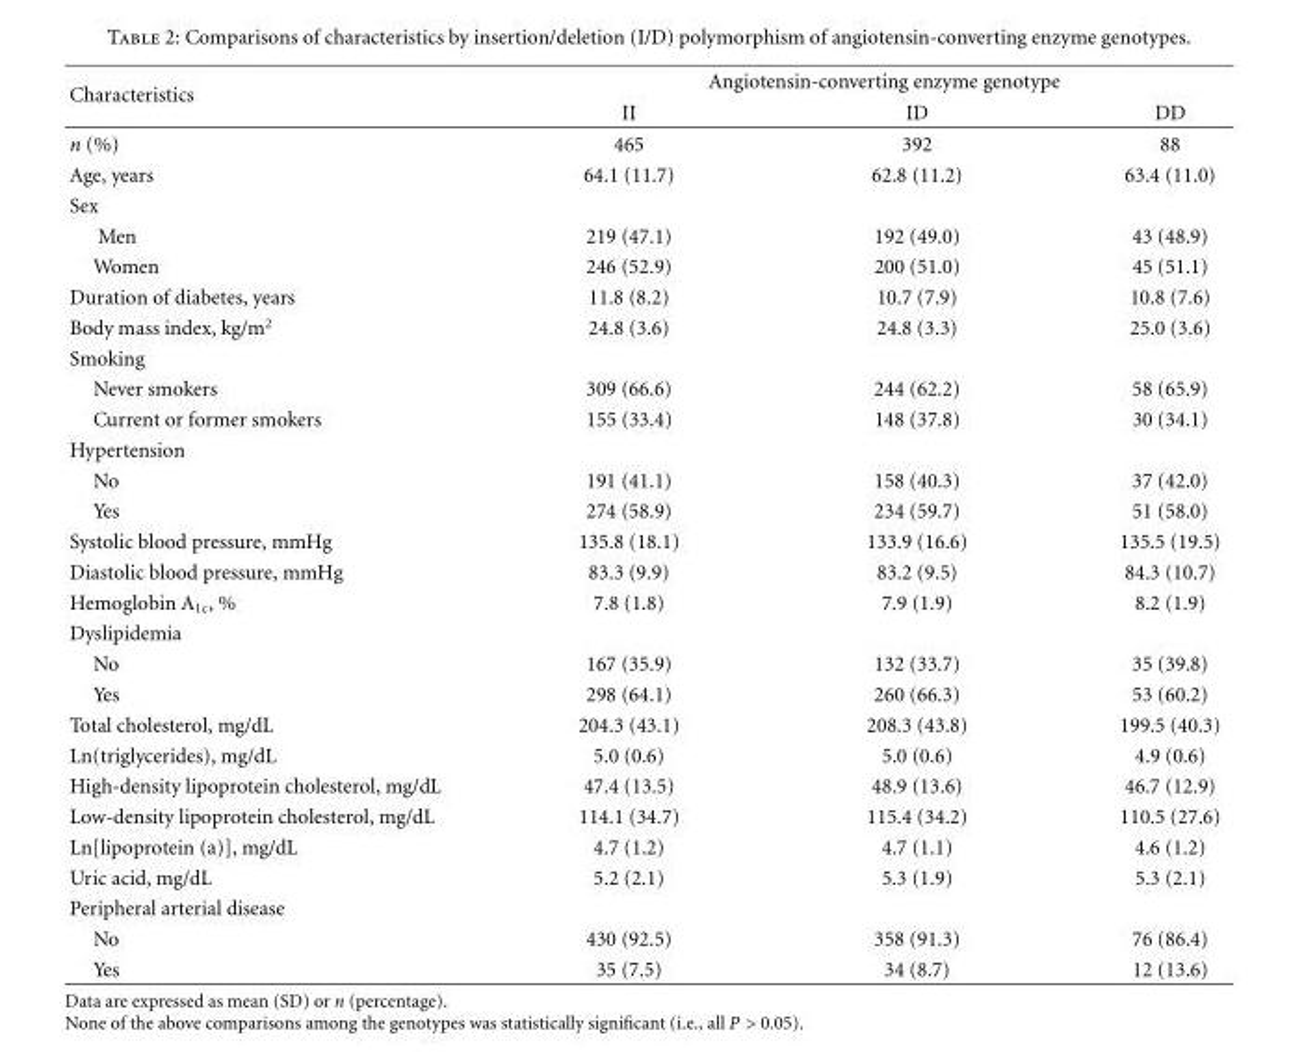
<table><thead><tr><td rowspan="2">Characteristics</td><td colspan="3">Angiotensin-converting enzyme genotype</td></tr><tr><td>II</td><td>ID</td><td>DD</td></tr></thead><tbody><tr><td>n (%)</td><td>465</td><td>392</td><td>88</td></tr><tr><td>Age, years</td><td>64.1 (11.7)</td><td>62.8 (11.2)</td><td>63.4 (11.0)</td></tr><tr><td colspan="4">Sex</td></tr><tr><td>Men</td><td>219 (47.1)</td><td>192 (49.0)</td><td>43 (48.9)</td></tr><tr><td>Women</td><td>246 (52.9)</td><td>200 (51.0)</td><td>45 (51.1)</td></tr><tr><td>Duration of diabetes, years</td><td>11.8 (8.2)</td><td>10.7 (7.9)</td><td>10.8 (7.6)</td></tr><tr><td>Body mass index, kg/m<sup>2</sup></td><td>24.8 (3.6)</td><td>24.8 (3.3)</td><td>25.0 (3.6)</td></tr><tr><td colspan="4">Smoking</td></tr><tr><td>Never smokers</td><td>309 (66.6)</td><td>244 (62.2)</td><td>58 (65.9)</td></tr><tr><td>Current or former smokers</td><td>155 (33.4)</td><td>148 (37.8)</td><td>30 (34.1)</td></tr><tr><td colspan="4">Hypertension</td></tr><tr><td>No</td><td>191 (41.1)</td><td>158 (40.3)</td><td>37 (42.0)</td></tr><tr><td>Yes</td><td>274 (58.9)</td><td>234 (59.7)</td><td>51 (58.0)</td></tr><tr><td>Systolic blood pressure, mmHg</td><td>135.8 (18.1)</td><td>133.9 (16.6)</td><td>135.5 (19.5)</td></tr><tr><td>Diastolic blood pressure, mmHg</td><td>83.3 (9.9)</td><td>83.2 (9.5)</td><td>84.3 (10.7)</td></tr><tr><td>Hemoglobin A<sub>1c</sub>, %</td><td>7.8 (1.8)</td><td>7.9 (1.9)</td><td>8.2 (1.9)</td></tr><tr><td colspan="4">Dyslipidemia</td></tr><tr><td>No</td><td>167 (35.9)</td><td>132 (33.7)</td><td>35 (39.8)</td></tr><tr><td>Yes</td><td>298 (64.1)</td><td>260 (66.3)</td><td>53 (60.2)</td></tr><tr><td>Total cholesterol, mg/dL</td><td>204.3 (43.1)</td><td>208.3 (43.8)</td><td>199.5 (40.3)</td></tr><tr><td>Ln(triglycerides), mg/dL</td><td>5.0 (0.6)</td><td>5.0 (0.6)</td><td>4.9 (0.6)</td></tr><tr><td>High-density lipoprotein cholesterol, mg/dL</td><td>47.4 (13.5)</td><td>48.9 (13.6)</td><td>46.7 (12.9)</td></tr><tr><td>Low-density lipoprotein cholesterol, mg/dL</td><td>114.1 (34.7)</td><td>115.4 (34.2)</td><td>110.5 (27.6)</td></tr><tr><td>Ln[lipoprotein (a)], mg/dL</td><td>4.7 (1.2)</td><td>4.7 (1.1)</td><td>4.6 (1.2)</td></tr><tr><td>Uric acid, mg/dL</td><td>5.2 (2.1)</td><td>5.3 (1.9)</td><td>5.3 (2.1)</td></tr><tr><td colspan="4">Peripheral arterial disease</td></tr><tr><td>No</td><td>430 (92.5)</td><td>358 (91.3)</td><td>76 (86.4)</td></tr><tr><td>Yes</td><td>35 (7.5)</td><td>34 (8.7)</td><td>12 (13.6)</td></tr></tbody></table>